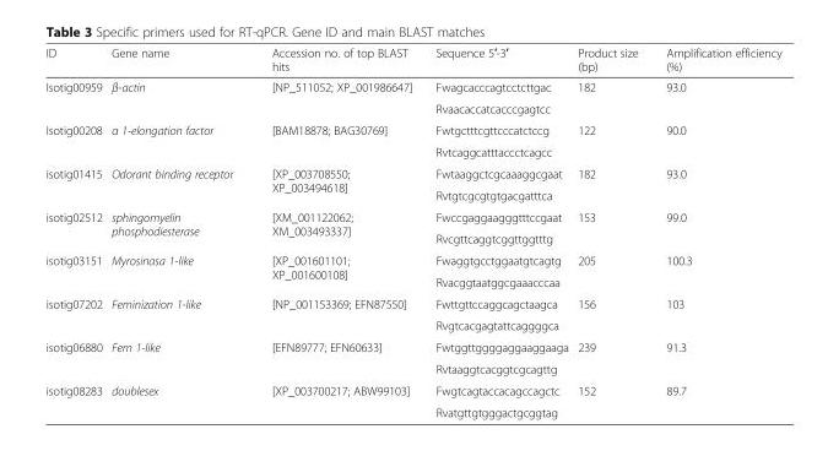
<table><thead><tr><td>ID</td><td>Gene name</td><td>Accession no. of top BLAST hits</td><td>Sequence 5′-3′</td><td>Product size (bp)</td><td>Amplification efficiency (%)</td></tr></thead><tbody><tr><td rowspan="2">Isotig00959</td><td rowspan="2">β-actin</td><td rowspan="2">[NP_511052; XP_001986647]</td><td>Fwagcacccagtcctcttgac</td><td rowspan="2">182</td><td rowspan="2">93.0</td></tr><tr><td>Rvaacaccatcacccgagtcc</td></tr><tr><td rowspan="2">Isotig00208</td><td rowspan="2">α 1-elongation factor</td><td rowspan="2">[BAM18878; BAG30769]</td><td>Fwtgctttcgttcccatctccg</td><td rowspan="2">122</td><td rowspan="2">90.0</td></tr><tr><td>Rvtcaggcatttaccctcagcc</td></tr><tr><td rowspan="2">isotig01415</td><td rowspan="2">Odorant binding receptor</td><td rowspan="2">[XP_003708550; XP_003494618]</td><td>Fwtaaggctcgcaaaggcgaat</td><td rowspan="2">182</td><td rowspan="2">93.0</td></tr><tr><td>Rvtgtcgcgtgtgacgatttca</td></tr><tr><td rowspan="2">isotig02512</td><td rowspan="2">sphingomyelin phosphodiesterase</td><td rowspan="2">[XM_001122062; XM_003493337]</td><td>Fwccgaggaagggtttccgaat</td><td rowspan="2">153</td><td rowspan="2">99.0</td></tr><tr><td>Rvcgttcaggtcggttggtttg</td></tr><tr><td rowspan="2">isotig03151</td><td rowspan="2">Myrosinasa 1-like</td><td rowspan="2">[XP_001601101; XP_001600108]</td><td>Fwaggtgcctggaatgtcagtg</td><td rowspan="2">205</td><td rowspan="2">100.3</td></tr><tr><td>Rvacggtaatggcgaaacccaa</td></tr><tr><td rowspan="2">isotig07202</td><td rowspan="2">Feminization 1-like</td><td rowspan="2">[NP_001153369; EFN87550]</td><td>Fwttgttccaggcagctaagca</td><td rowspan="2">156</td><td rowspan="2">103</td></tr><tr><td>Rvgtcacgagtattcaggggca</td></tr><tr><td rowspan="2">isotig06880</td><td rowspan="2">Fem 1-like</td><td rowspan="2">[EFN89777; EFN60633]</td><td>Fwtggttggggaggaaggaaga</td><td rowspan="2">239</td><td rowspan="2">91.3</td></tr><tr><td>Rvtaaggtcacggtcgcagttg</td></tr><tr><td rowspan="2">isotig08283</td><td rowspan="2">doublesex</td><td rowspan="2">[XP_003700217; ABW99103]</td><td>Fwgtcagtaccacagccagctc</td><td rowspan="2">152</td><td rowspan="2">89.7</td></tr><tr><td>Rvatgttgtgggactgcggtag</td></tr></tbody></table>